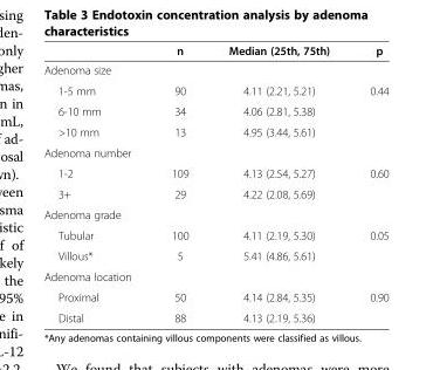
<table><thead><tr><td></td><td>n</td><td>Median (25th, 75th)</td><td>p</td></tr></thead><tbody><tr><td colspan="4">Adenoma size</td></tr><tr><td>1-5 mm</td><td>90</td><td>4.11 (2.21, 5.21)</td><td>0.44</td></tr><tr><td>6-10 mm</td><td>34</td><td>4.06 (2.81, 5.38)</td><td></td></tr><tr><td>&gt;10 mm</td><td>13</td><td>4.95 (3.44, 5.61)</td><td></td></tr><tr><td colspan="4">Adenoma number</td></tr><tr><td>1-2</td><td>109</td><td>4.13 (2.54, 5.27)</td><td>0.60</td></tr><tr><td>3+</td><td>29</td><td>4.22 (2.08, 5.69)</td><td></td></tr><tr><td colspan="4">Adenoma grade</td></tr><tr><td>Tubular</td><td>100</td><td>4.11 (2.19, 5.30)</td><td>0.05</td></tr><tr><td>Villous*</td><td>5</td><td>5.41 (4.86, 5.61)</td><td></td></tr><tr><td colspan="4">Adenoma location</td></tr><tr><td>Proximal</td><td>50</td><td>4.14 (2.84, 5.35)</td><td>0.90</td></tr><tr><td>Distal</td><td>88</td><td>4.13 (2.19, 5.36)</td><td></td></tr></tbody></table>